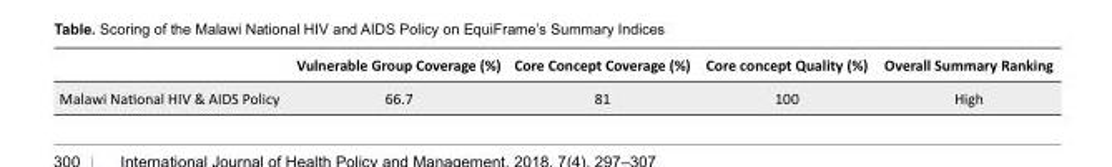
<table><thead><tr><td></td><td>Vulnerable Group Coverage (%)</td><td>Core Concept Coverage (%)</td><td>Core concept Quality (%)</td><td>Overall Summary Ranking</td></tr></thead><tbody><tr><td>Malawi National HIV &amp; AIDS Policy</td><td>66.7</td><td>81</td><td>100</td><td>High</td></tr></tbody></table>